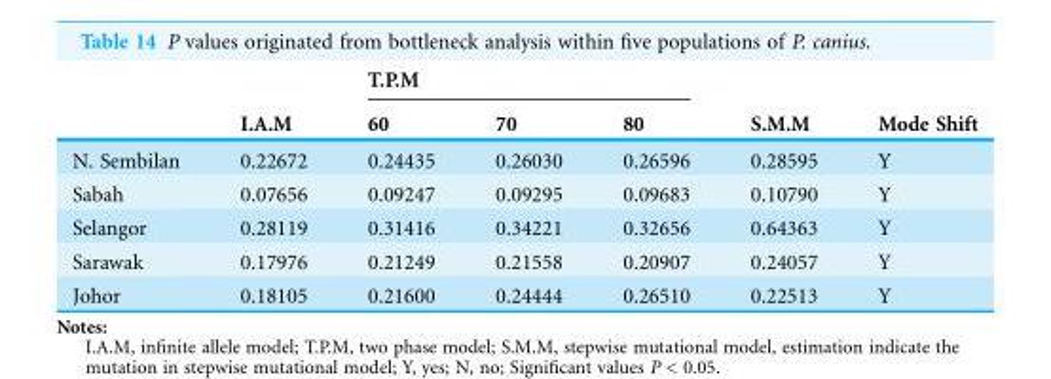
<table><thead><tr><td rowspan="2"></td><td rowspan="2">I.A.M</td><td colspan="3">T.P.M</td><td rowspan="2">S.M.M</td><td rowspan="2">Mode Shift</td></tr><tr><td>60</td><td>70</td><td>80</td></tr></thead><tbody><tr><td>N. Sembilan</td><td>0.22672</td><td>0.24435</td><td>0.26030</td><td>0.26596</td><td>0.28595</td><td>Y</td></tr><tr><td>Sabah</td><td>0.07656</td><td>0.09247</td><td>0.09295</td><td>0.09683</td><td>0.10790</td><td>Y</td></tr><tr><td>Selangor</td><td>0.28119</td><td>0.31416</td><td>0.34221</td><td>0.32656</td><td>0.64363</td><td>Y</td></tr><tr><td>Sarawak</td><td>0.17976</td><td>0.21249</td><td>0.21558</td><td>0.20907</td><td>0.24057</td><td>Y</td></tr><tr><td>Johor</td><td>0.18105</td><td>0.21600</td><td>0.24444</td><td>0.26510</td><td>0.22513</td><td>Y</td></tr></tbody></table>